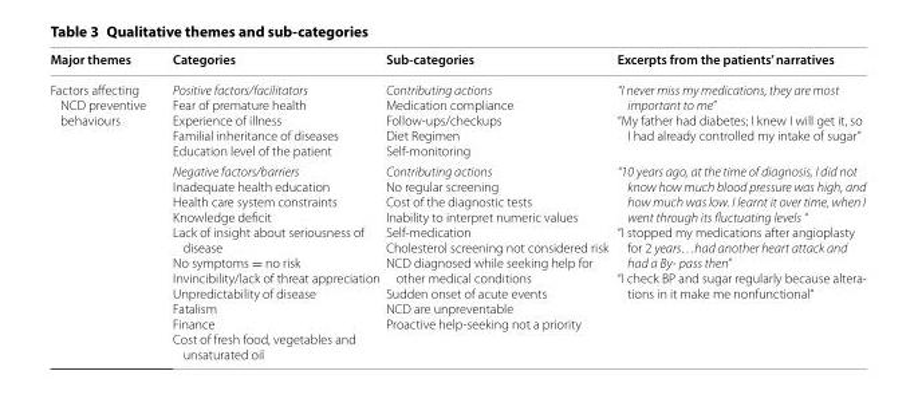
<table><thead><tr><td>Major themes</td><td>Categories</td><td>Sub‑categories</td><td>Excerpts from the patients’ narratives</td></tr></thead><tbody><tr><td rowspan="2">Factors affecting NCD preventive behaviours</td><td>Positive factors/facilitators Fear of premature health Experience of illness Familial inheritance of diseases Education level of the patient</td><td>Contributing actions Medication compliance Follow-ups/checkups Diet Regimen Self-monitoring</td><td>“I never miss my medications, they are most important to me” “My father had diabetes; I knew I will get it, so I had already controlled my intake of sugar”</td></tr><tr><td>Negative factors/barriers Inadequate health education Health care system constraints Knowledge deficit Lack of insight about seriousness of disease No symptoms = no risk Invincibility/lack of threat appreciation Unpredictability of disease Fatalism Finance Cost of fresh food, vegetables and unsaturated oil</td><td>Contributing actions No regular screening Cost of the diagnostic tests Inability to interpret numeric values Self-medication Cholesterol screening not considered risk NCD diagnosed while seeking help for other medical conditions Sudden onset of acute events NCD are unpreventable Proactive help-seeking not a priority</td><td>“10 years ago, at the time of diagnosis, I did not know how much blood pressure was high, and how much was low. I learnt it over time, when I went through its fluctuating levels “ “I stopped my medications after angioplasty for 2 years…had another heart attack and had a By- pass then” “I check BP and sugar regularly because altera- tions in it make me nonfunctional”</td></tr></tbody></table>